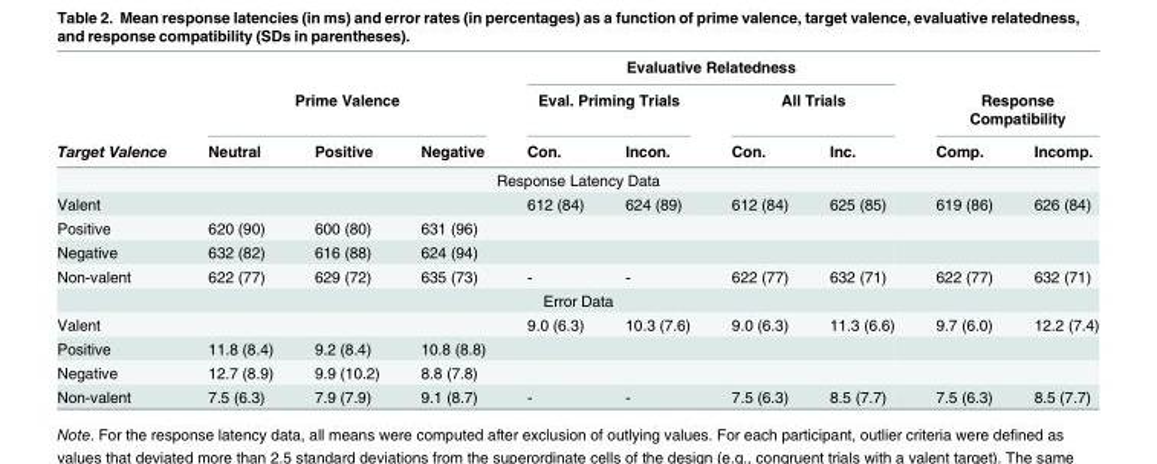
<table><thead><tr><td rowspan="3">Target Valence</td><td></td><td></td><td></td><td colspan="4">Evaluative Relatedness</td><td></td><td></td></tr><tr><td colspan="3">Prime Valence</td><td colspan="2">Eval. Priming Trials</td><td colspan="2">All Trials</td><td colspan="2">Response Compatibility</td></tr><tr><td>Neutral</td><td>Positive</td><td>Negative</td><td>Con.</td><td>Incon.</td><td>Con.</td><td>Inc.</td><td>Comp.</td><td>Incomp.</td></tr></thead><tbody><tr><td colspan="10">Response Latency Data</td></tr><tr><td>Valent</td><td></td><td></td><td></td><td>612 (84)</td><td>624 (89)</td><td>612 (84)</td><td>625 (85)</td><td>619 (86)</td><td>626 (84)</td></tr><tr><td>Positive</td><td>620 (90)</td><td>600 (80)</td><td>631 (96)</td><td></td><td></td><td></td><td></td><td></td><td></td></tr><tr><td>Negative</td><td>632 (82)</td><td>616 (88)</td><td>624 (94)</td><td></td><td></td><td></td><td></td><td></td><td></td></tr><tr><td>Non-valent</td><td>622 (77)</td><td>629 (72)</td><td>635 (73)</td><td>-</td><td>-</td><td>622 (77)</td><td>632 (71)</td><td>622 (77)</td><td>632 (71)</td></tr><tr><td colspan="10">Error Data</td></tr><tr><td>Valent</td><td></td><td></td><td></td><td>9.0 (6.3)</td><td>10.3 (7.6)</td><td>9.0 (6.3)</td><td>11.3 (6.6)</td><td>9.7 (6.0)</td><td>12.2 (7.4)</td></tr><tr><td>Positive</td><td>11.8 (8.4)</td><td>9.2 (8.4)</td><td>10.8 (8.8)</td><td></td><td></td><td></td><td></td><td></td><td></td></tr><tr><td>Negative</td><td>12.7 (8.9)</td><td>9.9 (10.2)</td><td>8.8 (7.8)</td><td></td><td></td><td></td><td></td><td></td><td></td></tr><tr><td>Non-valent</td><td>7.5 (6.3)</td><td>7.9 (7.9)</td><td>9.1 (8.7)</td><td>-</td><td>-</td><td>7.5 (6.3)</td><td>8.5 (7.7)</td><td>7.5 (6.3)</td><td>8.5 (7.7)</td></tr></tbody></table>